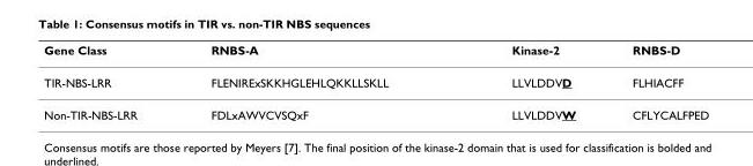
<table><thead><tr><td>Gene Class</td><td>RNBS-A</td><td>Kinase-2</td><td>RNBS-D</td></tr></thead><tbody><tr><td>TIR-NBS-LRR</td><td>FLENIRExSKKHGLEHLQKKLLSKLL</td><td>LLVLDDVD</td><td>FLHIACFF</td></tr><tr><td>Non-TIR-NBS-LRR</td><td>FDLxAWVCVSQxF</td><td>LLVLDDVW</td><td>CFLYCALFPED</td></tr></tbody></table>